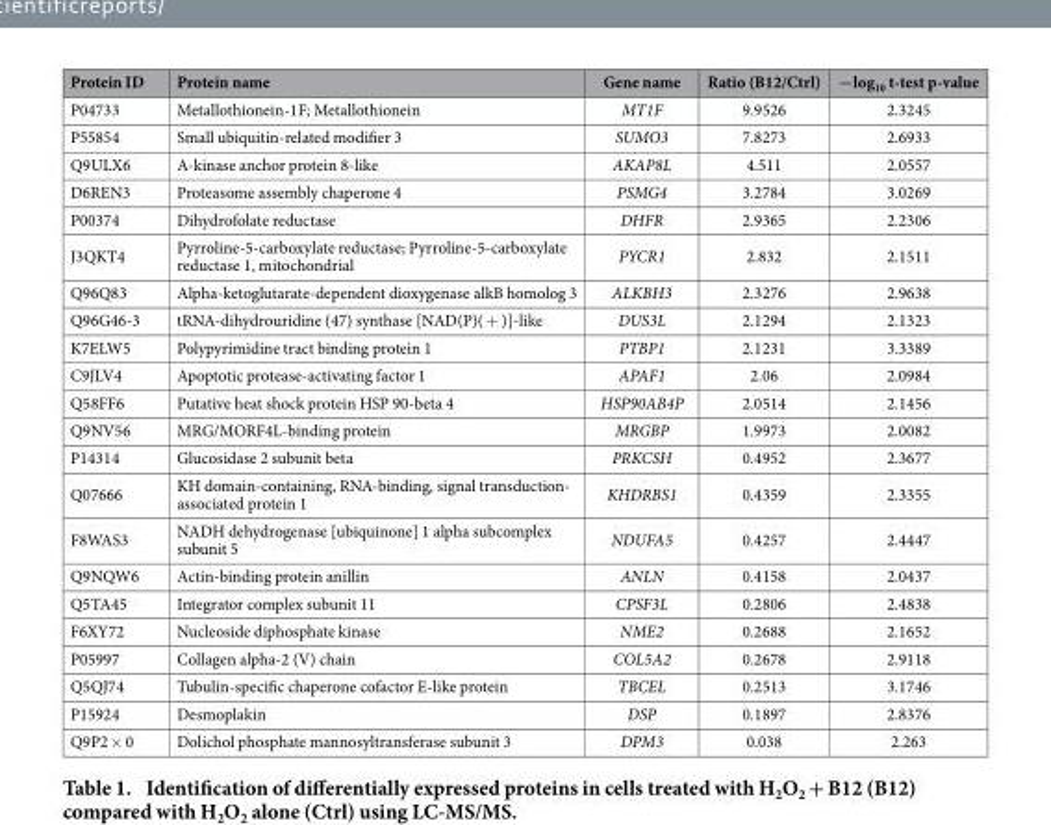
<table><thead><tr><td>Protein ID</td><td>Protein name</td><td>Gene name</td><td>Ratio (B12/Ctrl)</td><td>−log<sub>10</sub> t-test p-value</td></tr></thead><tbody><tr><td>P04733</td><td>Metallothionein-1F; Metallothionein</td><td>MT1F</td><td>9.9526</td><td>2.3245</td></tr><tr><td>P55854</td><td>Small ubiquitin-related modifier 3</td><td>SUMO3</td><td>7.8273</td><td>2.6933</td></tr><tr><td>Q9ULX6</td><td>A-kinase anchor protein 8-like</td><td>AKAP8L</td><td>4.511</td><td>2.0557</td></tr><tr><td>D6REN3</td><td>Proteasome assembly chaperone 4</td><td>PSMG4</td><td>3.2784</td><td>3.0269</td></tr><tr><td>P00374</td><td>Dihydrofolate reductase</td><td>DHFR</td><td>2.9365</td><td>2.2306</td></tr><tr><td>J3QKT4</td><td>Pyrroline-5-carboxylate reductase; Pyrroline-5-carboxylate reductase 1, mitochondrial</td><td>PYCR1</td><td>2.832</td><td>2.1511</td></tr><tr><td>Q96Q83</td><td>Alpha-ketoglutarate-dependent dioxygenase alkB homolog 3</td><td>ALKBH3</td><td>2.3276</td><td>2.9638</td></tr><tr><td>Q96G46-3</td><td>tRNA-dihydrouridine (47) synthase [NAD(P)( + )]-like</td><td>DUS3L</td><td>2.1294</td><td>2.1323</td></tr><tr><td>K7ELW5</td><td>Polypyrimidine tract binding protein 1</td><td>PTBP1</td><td>2.1231</td><td>3.3389</td></tr><tr><td>C9JLV4</td><td>Apoptotic protease-activating factor 1</td><td>APAF1</td><td>2.06</td><td>2.0984</td></tr><tr><td>Q58FF6</td><td>Putative heat shock protein HSP 90-beta 4</td><td>HSP90AB4P</td><td>2.0514</td><td>2.1456</td></tr><tr><td>Q9NV56</td><td>MRG/MORF4L-binding protein</td><td>MRGBP</td><td>1.9973</td><td>2.0082</td></tr><tr><td>P14314</td><td>Glucosidase 2 subunit beta</td><td>PRKCSH</td><td>0.4952</td><td>2.3677</td></tr><tr><td>Q07666</td><td>KH domain-containing, RNA-binding, signal transduction- associated protein 1</td><td>KHDRBS1</td><td>0.4359</td><td>2.3355</td></tr><tr><td>F8WAS3</td><td>NADH dehydrogenase [ubiquinone] 1 alpha subcomplex subunit 5</td><td>NDUFA5</td><td>0.4257</td><td>2.4447</td></tr><tr><td>Q9NQW6</td><td>Actin-binding protein anillin</td><td>ANLN</td><td>0.4158</td><td>2.0437</td></tr><tr><td>Q5TA45</td><td>Integrator complex subunit 11</td><td>CPSF3L</td><td>0.2806</td><td>2.4838</td></tr><tr><td>F6XY72</td><td>Nucleoside diphosphate kinase</td><td>NME2</td><td>0.2688</td><td>2.1652</td></tr><tr><td>P05997</td><td>Collagen alpha-2 (V) chain</td><td>COL5A2</td><td>0.2678</td><td>2.9118</td></tr><tr><td>Q5QJ74</td><td>Tubulin-specific chaperone cofactor E-like protein</td><td>TBCEL</td><td>0.2513</td><td>3.1746</td></tr><tr><td>P15924</td><td>Desmoplakin</td><td>DSP</td><td>0.1897</td><td>2.8376</td></tr><tr><td>Q9P2 × 0</td><td>Dolichol phosphate mannosyltransferase subunit 3</td><td>DPM3</td><td>0.038</td><td>2.263</td></tr></tbody></table>